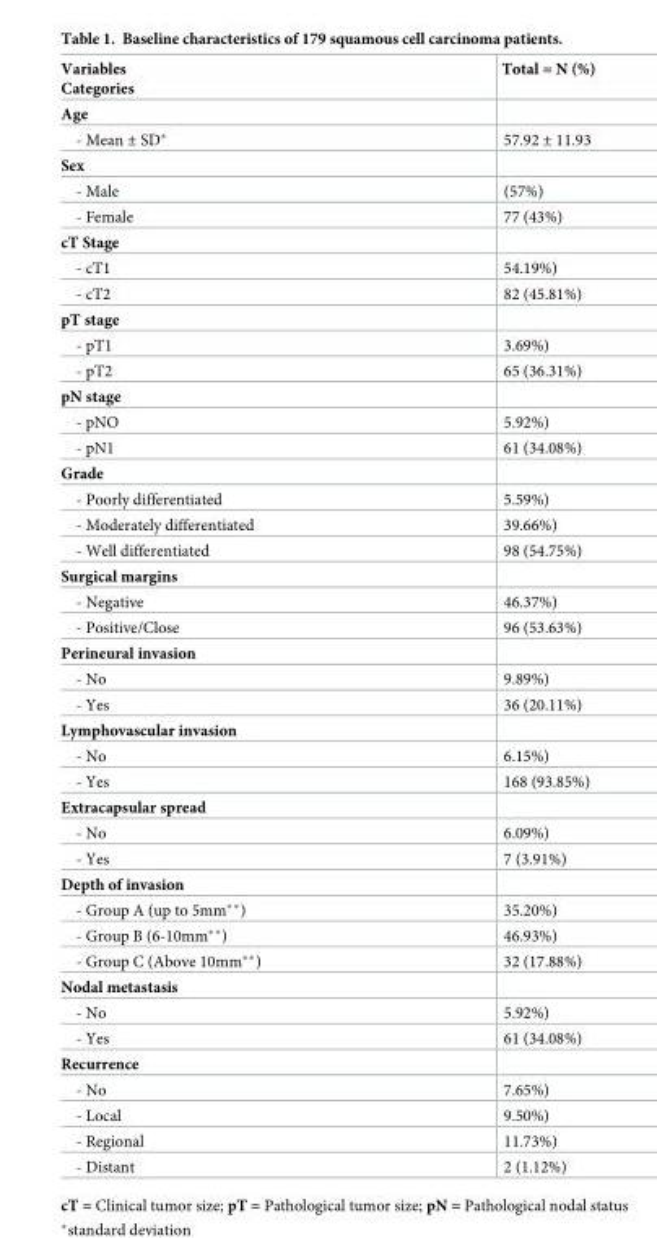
<table><thead><tr><td>Variables Categories</td><td>Total = N (%)</td></tr></thead><tbody><tr><td colspan="2">Age</td></tr><tr><td>- Mean ± SD*</td><td>57.92 ± 11.93</td></tr><tr><td colspan="2">Sex</td></tr><tr><td>- Male</td><td>(57%)</td></tr><tr><td>- Female</td><td>77 (43%)</td></tr><tr><td colspan="2">cT Stage</td></tr><tr><td>- cT1</td><td>54.19%)</td></tr><tr><td>- cT2</td><td>82 (45.81%)</td></tr><tr><td colspan="2">pT stage</td></tr><tr><td>- pT1</td><td>3.69%)</td></tr><tr><td>- pT2</td><td>65 (36.31%)</td></tr><tr><td colspan="2">pN stage</td></tr><tr><td>- pNO</td><td>5.92%)</td></tr><tr><td>- pN1</td><td>61 (34.08%)</td></tr><tr><td colspan="2">Grade</td></tr><tr><td>- Poorly differentiated</td><td>5.59%)</td></tr><tr><td>- Moderately differentiated</td><td>39.66%)</td></tr><tr><td>- Well differentiated</td><td>98 (54.75%)</td></tr><tr><td colspan="2">Surgical margins</td></tr><tr><td>- Negative</td><td>46.37%)</td></tr><tr><td>- Positive/Close</td><td>96 (53.63%)</td></tr><tr><td colspan="2">Perineural invasion</td></tr><tr><td>- No</td><td>9.89%)</td></tr><tr><td>- Yes</td><td>36 (20.11%)</td></tr><tr><td colspan="2">Lymphovascular invasion</td></tr><tr><td>- No</td><td>6.15%)</td></tr><tr><td>- Yes</td><td>168 (93.85%)</td></tr><tr><td colspan="2">Extracapsular spread</td></tr><tr><td>- No</td><td>6.09%)</td></tr><tr><td>- Yes</td><td>7 (3.91%)</td></tr><tr><td colspan="2">Depth of invasion</td></tr><tr><td>- Group A (up to 5mm**)</td><td>35.20%)</td></tr><tr><td>- Group B (6-10mm**)</td><td>46.93%)</td></tr><tr><td>- Group C (Above 10mm**)</td><td>32 (17.88%)</td></tr><tr><td colspan="2">Nodal metastasis</td></tr><tr><td>- No</td><td>5.92%)</td></tr><tr><td>- Yes</td><td>61 (34.08%)</td></tr><tr><td colspan="2">Recurrence</td></tr><tr><td>- No</td><td>7.65%)</td></tr><tr><td>- Local</td><td>9.50%)</td></tr><tr><td>- Regional</td><td>11.73%)</td></tr><tr><td>- Distant</td><td>2 (1.12%)</td></tr></tbody></table>